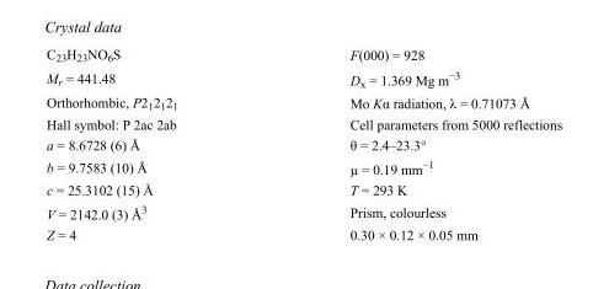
<table><tbody><tr><td>C<sub>23</sub>H<sub>23</sub>NO<sub>6</sub>S</td><td>F(000) = 928</td></tr><tr><td>M<sub>r</sub> = 441.48</td><td>D<sub>x</sub> = 1.369 Mg m<sup>−3</sup></td></tr><tr><td>Orthorhombic, P2<sub>1</sub>2<sub>1</sub>2<sub>1</sub></td><td>Mo Kα radiation, λ = 0.71073 Å</td></tr><tr><td>Hall symbol: P 2ac 2ab</td><td>Cell parameters from 5000 reflections</td></tr><tr><td>a = 8.6728 (6) Å</td><td>θ = 2.4–23.3°</td></tr><tr><td>b = 9.7583 (10) Å</td><td>µ = 0.19 mm<sup>−1</sup></td></tr><tr><td>c = 25.3102 (15) Å</td><td>T = 293 K</td></tr><tr><td>V = 2142.0 (3) Å<sup>3</sup></td><td>Prism, colourless</td></tr><tr><td>Z = 4</td><td>0.30 × 0.12 × 0.05 mm</td></tr></tbody></table>